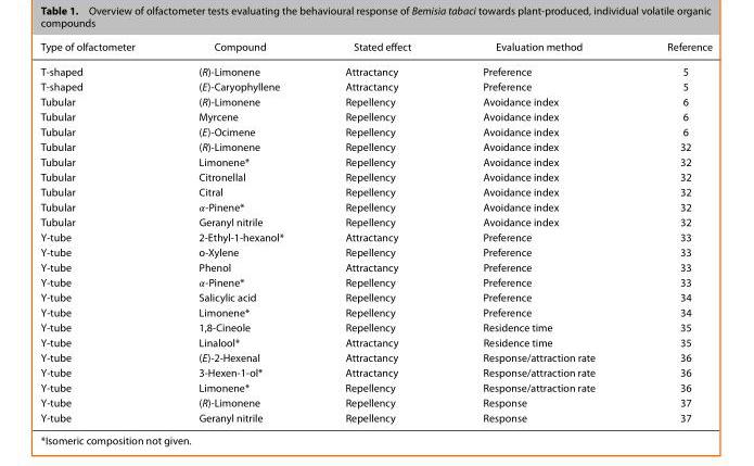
<table><thead><tr><td>Type of olfactometer</td><td>Compound</td><td>Stated effect</td><td>Evaluation method</td><td>Reference</td></tr></thead><tbody><tr><td>T-shaped</td><td>(R)-Limonene</td><td>Attractancy</td><td>Preference</td><td>5</td></tr><tr><td>T-shaped</td><td>(E)-Caryophyllene</td><td>Attractancy</td><td>Preference</td><td>5</td></tr><tr><td>Tubular</td><td>(R)-Limonene</td><td>Repellency</td><td>Avoidance index</td><td>6</td></tr><tr><td>Tubular</td><td>Myrcene</td><td>Repellency</td><td>Avoidance index</td><td>6</td></tr><tr><td>Tubular</td><td>(E)-Ocimene</td><td>Repellency</td><td>Avoidance index</td><td>6</td></tr><tr><td>Tubular</td><td>(R)-Limonene</td><td>Repellency</td><td>Avoidance index</td><td>32</td></tr><tr><td>Tubular</td><td>Limonene*</td><td>Repellency</td><td>Avoidance index</td><td>32</td></tr><tr><td>Tubular</td><td>Citronellal</td><td>Repellency</td><td>Avoidance index</td><td>32</td></tr><tr><td>Tubular</td><td>Citral</td><td>Repellency</td><td>Avoidance index</td><td>32</td></tr><tr><td>Tubular</td><td>𝛼-Pinene*</td><td>Repellency</td><td>Avoidance index</td><td>32</td></tr><tr><td>Tubular</td><td>Geranyl nitrile</td><td>Repellency</td><td>Avoidance index</td><td>32</td></tr><tr><td>Y-tube</td><td>2-Ethyl-1-hexanol*</td><td>Attractancy</td><td>Preference</td><td>33</td></tr><tr><td>Y-tube</td><td>o-Xylene</td><td>Repellency</td><td>Preference</td><td>33</td></tr><tr><td>Y-tube</td><td>Phenol</td><td>Attractancy</td><td>Preference</td><td>33</td></tr><tr><td>Y-tube</td><td>𝛼-Pinene*</td><td>Repellency</td><td>Preference</td><td>33</td></tr><tr><td>Y-tube</td><td>Salicylic acid</td><td>Repellency</td><td>Preference</td><td>34</td></tr><tr><td>Y-tube</td><td>Limonene*</td><td>Repellency</td><td>Preference</td><td>34</td></tr><tr><td>Y-tube</td><td>1,8-Cineole</td><td>Repellency</td><td>Residence time</td><td>35</td></tr><tr><td>Y-tube</td><td>Linalool*</td><td>Attractancy</td><td>Residence time</td><td>35</td></tr><tr><td>Y-tube</td><td>(E)-2-Hexenal</td><td>Attractancy</td><td>Response/attraction rate</td><td>36</td></tr><tr><td>Y-tube</td><td>3-Hexen-1-ol*</td><td>Attractancy</td><td>Response/attraction rate</td><td>36</td></tr><tr><td>Y-tube</td><td>Limonene*</td><td>Repellency</td><td>Response/attraction rate</td><td>36</td></tr><tr><td>Y-tube</td><td>(R)-Limonene</td><td>Repellency</td><td>Response</td><td>37</td></tr><tr><td>Y-tube</td><td>Geranyl nitrile</td><td>Repellency</td><td>Response</td><td>37</td></tr></tbody></table>